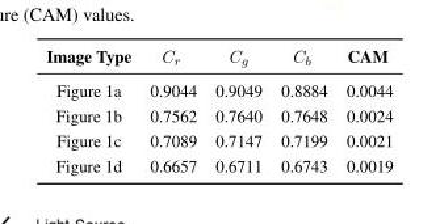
<table><thead><tr><td>Image Type</td><td>C<sub>r</sub></td><td>C<sub>g</sub></td><td>C<sub>b</sub></td><td>CAM</td></tr></thead><tbody><tr><td>Figure 1a</td><td>0.9044</td><td>0.9049</td><td>0.8884</td><td>0.0044</td></tr><tr><td>Figure 1b</td><td>0.7562</td><td>0.7640</td><td>0.7648</td><td>0.0024</td></tr><tr><td>Figure 1c</td><td>0.7089</td><td>0.7147</td><td>0.7199</td><td>0.0021</td></tr><tr><td>Figure 1d</td><td>0.6657</td><td>0.6711</td><td>0.6743</td><td>0.0019</td></tr></tbody></table>